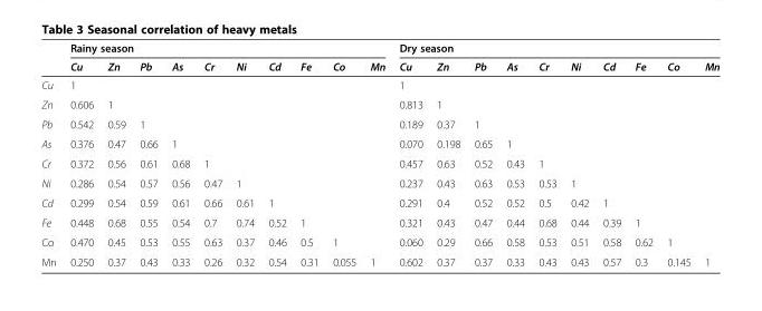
<table><thead><tr><td rowspan="2"></td><td colspan="10">Rainy season</td><td colspan="10">Dry season</td></tr><tr><td>Cu</td><td>Zn</td><td>Pb</td><td>As</td><td>Cr</td><td>Ni</td><td>Cd</td><td>Fe</td><td>Co</td><td>Mn</td><td>Cu</td><td>Zn</td><td>Pb</td><td>As</td><td>Cr</td><td>Ni</td><td>Cd</td><td>Fe</td><td>Co</td><td>Mn</td></tr></thead><tbody><tr><td>Cu</td><td>1</td><td></td><td></td><td></td><td></td><td></td><td></td><td></td><td></td><td></td><td>1</td><td></td><td></td><td></td><td></td><td></td><td></td><td></td><td></td><td></td></tr><tr><td>Zn</td><td>0.606</td><td>1</td><td></td><td></td><td></td><td></td><td></td><td></td><td></td><td></td><td>0.813</td><td>1</td><td></td><td></td><td></td><td></td><td></td><td></td><td></td><td></td></tr><tr><td>Pb</td><td>0.542</td><td>0.59</td><td>1</td><td></td><td></td><td></td><td></td><td></td><td></td><td></td><td>0.189</td><td>0.37</td><td>1</td><td></td><td></td><td></td><td></td><td></td><td></td><td></td></tr><tr><td>As</td><td>0.376</td><td>0.47</td><td>0.66</td><td>1</td><td></td><td></td><td></td><td></td><td></td><td></td><td>0.070</td><td>0.198</td><td>0.65</td><td>1</td><td></td><td></td><td></td><td></td><td></td><td></td></tr><tr><td>Cr</td><td>0.372</td><td>0.56</td><td>0.61</td><td>0.68</td><td>1</td><td></td><td></td><td></td><td></td><td></td><td>0.457</td><td>0.63</td><td>0.52</td><td>0.43</td><td>1</td><td></td><td></td><td></td><td></td><td></td></tr><tr><td>Ni</td><td>0.286</td><td>0.54</td><td>0.57</td><td>0.56</td><td>0.47</td><td>1</td><td></td><td></td><td></td><td></td><td>0.237</td><td>0.43</td><td>0.63</td><td>0.53</td><td>0.53</td><td>1</td><td></td><td></td><td></td><td></td></tr><tr><td>Cd</td><td>0.299</td><td>0.54</td><td>0.59</td><td>0.61</td><td>0.66</td><td>0.61</td><td>1</td><td></td><td></td><td></td><td>0.291</td><td>0.4</td><td>0.52</td><td>0.52</td><td>0.5</td><td>0.42</td><td>1</td><td></td><td></td><td></td></tr><tr><td>Fe</td><td>0.448</td><td>0.68</td><td>0.55</td><td>0.54</td><td>0.7</td><td>0.74</td><td>0.52</td><td>1</td><td></td><td></td><td>0.321</td><td>0.43</td><td>0.47</td><td>0.44</td><td>0.68</td><td>0.44</td><td>0.39</td><td>1</td><td></td><td></td></tr><tr><td>Co</td><td>0.470</td><td>0.45</td><td>0.53</td><td>0.55</td><td>0.63</td><td>0.37</td><td>0.46</td><td>0.5</td><td>1</td><td></td><td>0.060</td><td>0.29</td><td>0.66</td><td>0.58</td><td>0.53</td><td>0.51</td><td>0.58</td><td>0.62</td><td>1</td><td></td></tr><tr><td>Mn</td><td>0.250</td><td>0.37</td><td>0.43</td><td>0.33</td><td>0.26</td><td>0.32</td><td>0.54</td><td>0.31</td><td>0.055</td><td>1</td><td>0.602</td><td>0.37</td><td>0.37</td><td>0.33</td><td>0.43</td><td>0.43</td><td>0.57</td><td>0.3</td><td>0.145</td><td>1</td></tr></tbody></table>